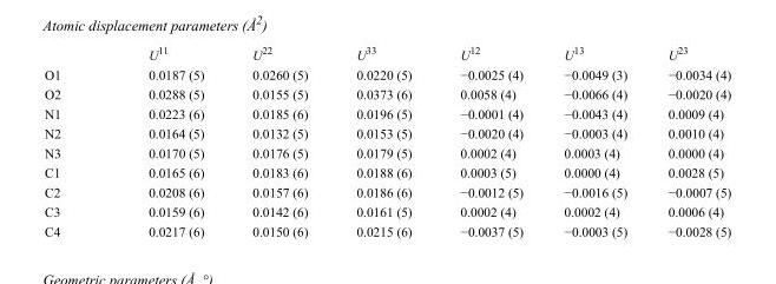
<table><thead><tr><td></td><td>U<sup>11</sup></td><td>U<sup>22</sup></td><td>U<sup>33</sup></td><td>U<sup>12</sup></td><td>U<sup>13</sup></td><td>U<sup>23</sup></td></tr></thead><tbody><tr><td>O1</td><td>0.0187 (5)</td><td>0.0260 (5)</td><td>0.0220 (5)</td><td>−0.0025 (4)</td><td>−0.0049 (3)</td><td>−0.0034 (4)</td></tr><tr><td>O2</td><td>0.0288 (5)</td><td>0.0155 (5)</td><td>0.0373 (6)</td><td>0.0058 (4)</td><td>−0.0066 (4)</td><td>−0.0020 (4)</td></tr><tr><td>N1</td><td>0.0223 (6)</td><td>0.0185 (6)</td><td>0.0196 (5)</td><td>−0.0001 (4)</td><td>−0.0043 (4)</td><td>0.0009 (4)</td></tr><tr><td>N2</td><td>0.0164 (5)</td><td>0.0132 (5)</td><td>0.0153 (5)</td><td>−0.0020 (4)</td><td>−0.0003 (4)</td><td>0.0010 (4)</td></tr><tr><td>N3</td><td>0.0170 (5)</td><td>0.0176 (5)</td><td>0.0179 (5)</td><td>0.0002 (4)</td><td>0.0003 (4)</td><td>0.0000 (4)</td></tr><tr><td>C1</td><td>0.0165 (6)</td><td>0.0183 (6)</td><td>0.0188 (6)</td><td>0.0003 (5)</td><td>0.0000 (4)</td><td>0.0028 (5)</td></tr><tr><td>C2</td><td>0.0208 (6)</td><td>0.0157 (6)</td><td>0.0186 (6)</td><td>−0.0012 (5)</td><td>−0.0016 (5)</td><td>−0.0007 (5)</td></tr><tr><td>C3</td><td>0.0159 (6)</td><td>0.0142 (6)</td><td>0.0161 (5)</td><td>0.0002 (4)</td><td>0.0002 (4)</td><td>0.0006 (4)</td></tr><tr><td>C4</td><td>0.0217 (6)</td><td>0.0150 (6)</td><td>0.0215 (6)</td><td>−0.0037 (5)</td><td>−0.0003 (5)</td><td>−0.0028 (5)</td></tr></tbody></table>